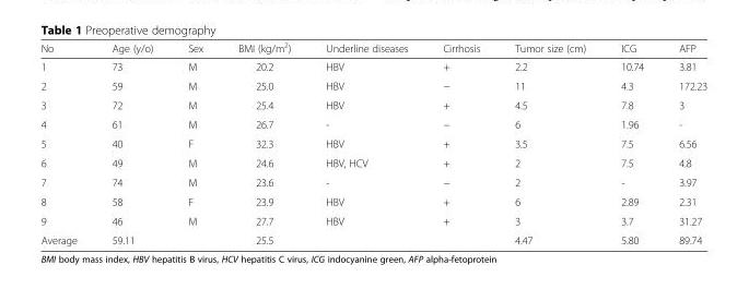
<table><thead><tr><td>No</td><td>Age (y/o)</td><td>Sex</td><td>BMI (kg/m<sup>2</sup>)</td><td>Underline diseases</td><td>Cirrhosis</td><td>Tumor size (cm)</td><td>ICG</td><td>AFP</td></tr></thead><tbody><tr><td>1</td><td>73</td><td>M</td><td>20.2</td><td>HBV</td><td>+</td><td>2.2</td><td>10.74</td><td>3.81</td></tr><tr><td>2</td><td>59</td><td>M</td><td>25.0</td><td>HBV</td><td>−</td><td>11</td><td>4.3</td><td>172.23</td></tr><tr><td>3</td><td>72</td><td>M</td><td>25.4</td><td>HBV</td><td>+</td><td>4.5</td><td>7.8</td><td>3</td></tr><tr><td>4</td><td>61</td><td>M</td><td>26.7</td><td>-</td><td>−</td><td>6</td><td>1.96</td><td>-</td></tr><tr><td>5</td><td>40</td><td>F</td><td>32.3</td><td>HBV</td><td>+</td><td>3.5</td><td>7.5</td><td>6.56</td></tr><tr><td>6</td><td>49</td><td>M</td><td>24.6</td><td>HBV, HCV</td><td>+</td><td>2</td><td>7.5</td><td>4.8</td></tr><tr><td>7</td><td>74</td><td>M</td><td>23.6</td><td>-</td><td>−</td><td>2</td><td>-</td><td>3.97</td></tr><tr><td>8</td><td>58</td><td>F</td><td>23.9</td><td>HBV</td><td>+</td><td>6</td><td>2.89</td><td>2.31</td></tr><tr><td>9</td><td>46</td><td>M</td><td>27.7</td><td>HBV</td><td>+</td><td>3</td><td>3.7</td><td>31.27</td></tr><tr><td>Average</td><td>59.11</td><td></td><td>25.5</td><td></td><td></td><td>4.47</td><td>5.80</td><td>89.74</td></tr></tbody></table>